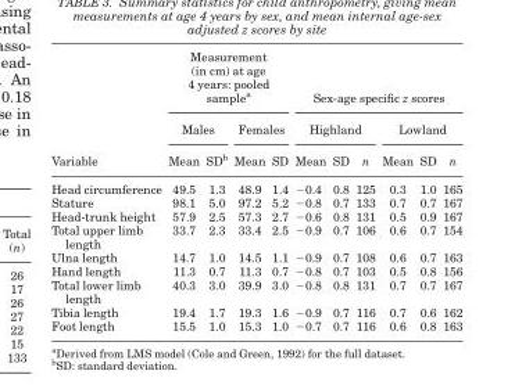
<table><thead><tr><td rowspan="3">Variable</td><td colspan="4">Measurement (in cm) at age 4 years: pooled sample<sup>a</sup></td><td colspan="6">Sex-age specific z scores</td></tr><tr><td colspan="2">Males</td><td colspan="2">Females</td><td colspan="3">Highland</td><td colspan="3">Lowland</td></tr><tr><td>Mean</td><td>SD<sup>b</sup></td><td>Mean</td><td>SD</td><td>Mean</td><td>SD</td><td>n</td><td>Mean</td><td>SD</td><td>n</td></tr></thead><tbody><tr><td>Head circumference</td><td>49.5</td><td>1.3</td><td>48.9</td><td>1.4</td><td>−0.4</td><td>0.8</td><td>125</td><td>0.3</td><td>1.0</td><td>165</td></tr><tr><td>Stature</td><td>98.1</td><td>5.0</td><td>97.2</td><td>5.2</td><td>−0.8</td><td>0.7</td><td>133</td><td>0.7</td><td>0.7</td><td>167</td></tr><tr><td>Head-trunk height</td><td>57.9</td><td>2.5</td><td>57.3</td><td>2.7</td><td>−0.6</td><td>0.8</td><td>131</td><td>0.5</td><td>0.9</td><td>167</td></tr><tr><td>Total upper limb length</td><td>33.7</td><td>2.3</td><td>33.4</td><td>2.5</td><td>−0.9</td><td>0.7</td><td>106</td><td>0.6</td><td>0.7</td><td>154</td></tr><tr><td>Ulna length</td><td>14.7</td><td>1.0</td><td>14.5</td><td>1.1</td><td>−0.9</td><td>0.7</td><td>108</td><td>0.6</td><td>0.7</td><td>163</td></tr><tr><td>Hand length</td><td>11.3</td><td>0.7</td><td>11.3</td><td>0.7</td><td>−0.8</td><td>0.7</td><td>103</td><td>0.5</td><td>0.8</td><td>156</td></tr><tr><td>Total lower limb length</td><td>40.3</td><td>3.0</td><td>39.9</td><td>3.0</td><td>−0.8</td><td>0.8</td><td>131</td><td>0.7</td><td>0.7</td><td>167</td></tr><tr><td>Tibia length</td><td>19.4</td><td>1.7</td><td>19.3</td><td>1.6</td><td>−0.9</td><td>0.7</td><td>116</td><td>0.7</td><td>0.6</td><td>162</td></tr><tr><td>Foot length</td><td>15.5</td><td>1.0</td><td>15.3</td><td>1.0</td><td>−0.7</td><td>0.7</td><td>116</td><td>0.6</td><td>0.8</td><td>163</td></tr></tbody></table>